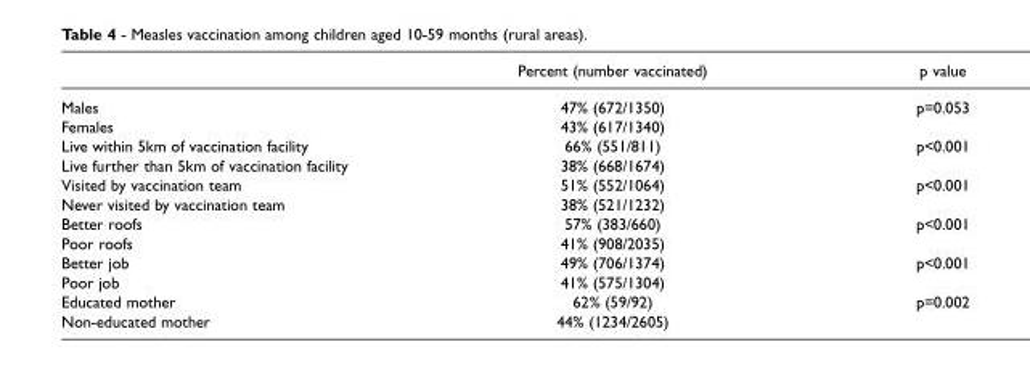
<table><thead><tr><td></td><td>Percent (number vaccinated)</td><td>p value</td></tr></thead><tbody><tr><td>Males</td><td>47% (672/1350)</td><td>p=0.053</td></tr><tr><td>Females</td><td>43% (617/1340)</td><td></td></tr><tr><td>Live within 5km of vaccination facility</td><td>66% (551/811)</td><td>p&lt;0.001</td></tr><tr><td>Live further than 5km of vaccination facility</td><td>38% (668/1674)</td><td></td></tr><tr><td>Visited by vaccination team</td><td>51% (552/1064)</td><td>p&lt;0.001</td></tr><tr><td>Never visited by vaccination team</td><td>38% (521/1232)</td><td></td></tr><tr><td>Better roofs</td><td>57% (383/660)</td><td>p&lt;0.001</td></tr><tr><td>Poor roofs</td><td>41% (908/2035)</td><td></td></tr><tr><td>Better job</td><td>49% (706/1374)</td><td>p&lt;0.001</td></tr><tr><td>Poor job</td><td>41% (575/1304)</td><td></td></tr><tr><td>Educated mother</td><td>62% (59/92)</td><td>p=0.002</td></tr><tr><td>Non-educated mother</td><td>44% (1234/2605)</td><td></td></tr></tbody></table>